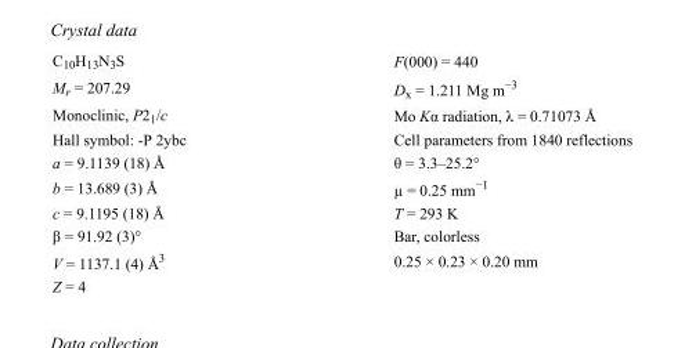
<table><tbody><tr><td>C<sub>10</sub>H<sub>13</sub>N<sub>3</sub>S</td><td>F(000) = 440</td></tr><tr><td>M<sub>r</sub> = 207.29</td><td>D<sub>x</sub> = 1.211 Mg m<sup>−3</sup></td></tr><tr><td>Monoclinic, P2<sub>1</sub>/c</td><td>Mo Kα radiation, λ = 0.71073 Å</td></tr><tr><td>Hall symbol: -P 2ybc</td><td>Cell parameters from 1840 reflections</td></tr><tr><td>a = 9.1139 (18) Å</td><td>θ = 3.3–25.2°</td></tr><tr><td>b = 13.689 (3) Å</td><td>µ = 0.25 mm<sup>−1</sup></td></tr><tr><td>c = 9.1195 (18) Å</td><td>T = 293 K</td></tr><tr><td>β = 91.92 (3)°</td><td>Bar, colorless</td></tr><tr><td>V = 1137.1 (4) Å<sup>3</sup></td><td>0.25 × 0.23 × 0.20 mm</td></tr><tr><td>Z = 4</td><td></td></tr></tbody></table>